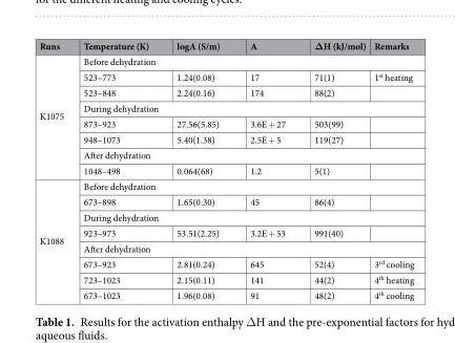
<table><thead><tr><td>Runs</td><td>Temperature (K)</td><td>logA (S/m)</td><td>A</td><td>ΔH (kJ/mol)</td><td>Remarks</td></tr></thead><tbody><tr><td rowspan="8">K1075</td><td colspan="5">Before dehydration</td></tr><tr><td>523–773</td><td>1.24(0.08)</td><td>17</td><td>71(1)</td><td>1<sup>st</sup> heating</td></tr><tr><td>523–848</td><td>2.24(0.16)</td><td>174</td><td>88(2)</td><td></td></tr><tr><td colspan="5">During dehydration</td></tr><tr><td>873–923</td><td>27.56(5.85)</td><td>3.6E + 27</td><td>503(99)</td><td></td></tr><tr><td>948–1073</td><td>5.40(1.38)</td><td>2.5E + 5</td><td>119(27)</td><td></td></tr><tr><td colspan="5">After dehydration</td></tr><tr><td>1048–498</td><td>0.064(68)</td><td>1.2</td><td>5(1)</td><td></td></tr><tr><td rowspan="8">K1088</td><td colspan="5">Before dehydration</td></tr><tr><td>673–898</td><td>1.65(0.30)</td><td>45</td><td>86(4)</td><td></td></tr><tr><td colspan="5">During dehydration</td></tr><tr><td>923–973</td><td>53.51(2.25)</td><td>3.2E + 53</td><td>991(40)</td><td></td></tr><tr><td colspan="5">After dehydration</td></tr><tr><td>673–923</td><td>2.81(0.24)</td><td>645</td><td>52(4)</td><td>3<sup>rd</sup> cooling</td></tr><tr><td>723–1023</td><td>2.15(0.11)</td><td>141</td><td>44(2)</td><td>4<sup>th</sup> heating</td></tr><tr><td>673–1023</td><td>1.96(0.08)</td><td>91</td><td>48(2)</td><td>4<sup>th</sup> cooling</td></tr></tbody></table>